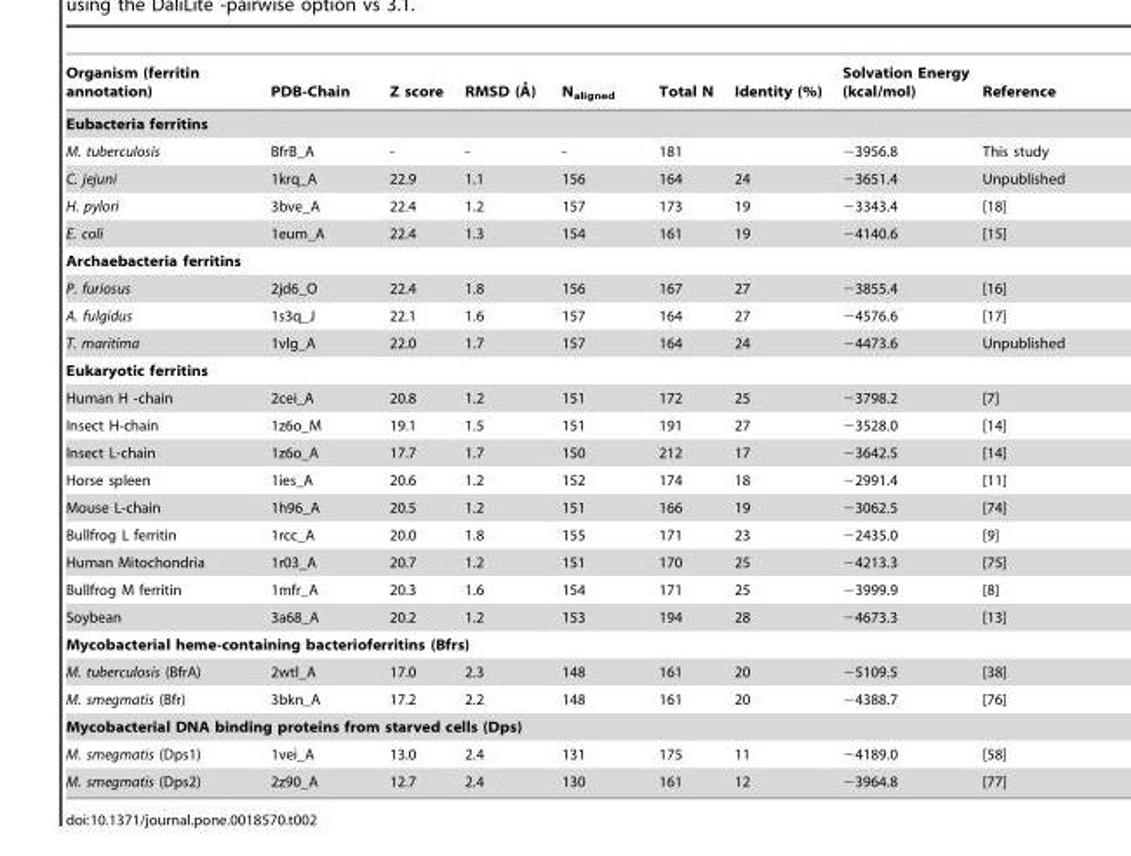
<table><thead><tr><td>Organism (ferritin annotation)</td><td>PDB-Chain</td><td>Z score</td><td>RMSD (A˚)</td><td>N<sub>aligned</sub></td><td>Total N</td><td>Identity (%)</td><td>Solvation Energy (kcal/mol)</td><td>Reference</td></tr></thead><tbody><tr><td colspan="9">Eubacteria ferritins</td></tr><tr><td>M. tuberculosis</td><td>BfrB_A</td><td>-</td><td>-</td><td>-</td><td>181</td><td></td><td>−3956.8</td><td>This study</td></tr><tr><td>C. jejuni</td><td>1krq_A</td><td>22.9</td><td>1.1</td><td>156</td><td>164</td><td>24</td><td>−3651.4</td><td>Unpublished</td></tr><tr><td>H. pylori</td><td>3bve_A</td><td>22.4</td><td>1.2</td><td>157</td><td>173</td><td>19</td><td>−3343.4</td><td>[18]</td></tr><tr><td>E. coli</td><td>1eum_A</td><td>22.4</td><td>1.3</td><td>154</td><td>161</td><td>19</td><td>−4140.6</td><td>[15]</td></tr><tr><td colspan="9">Archaebacteria ferritins</td></tr><tr><td>P. furiosus</td><td>2jd6_O</td><td>22.4</td><td>1.8</td><td>156</td><td>167</td><td>27</td><td>−3855.4</td><td>[16]</td></tr><tr><td>A. fulgidus</td><td>1s3q_J</td><td>22.1</td><td>1.6</td><td>157</td><td>164</td><td>27</td><td>−4576.6</td><td>[17]</td></tr><tr><td>T. maritima</td><td>1vlg_A</td><td>22.0</td><td>1.7</td><td>157</td><td>164</td><td>24</td><td>−4473.6</td><td>Unpublished</td></tr><tr><td colspan="9">Eukaryotic ferritins</td></tr><tr><td>Human H -chain</td><td>2cei_A</td><td>20.8</td><td>1.2</td><td>151</td><td>172</td><td>25</td><td>−3798.2</td><td>[7]</td></tr><tr><td>Insect H-chain</td><td>1z6o_M</td><td>19.1</td><td>1.5</td><td>151</td><td>191</td><td>27</td><td>−3528.0</td><td>[14]</td></tr><tr><td>Insect L-chain</td><td>1z6o_A</td><td>17.7</td><td>1.7</td><td>150</td><td>212</td><td>17</td><td>−3642.5</td><td>[14]</td></tr><tr><td>Horse spleen</td><td>1ies_A</td><td>20.6</td><td>1.2</td><td>152</td><td>174</td><td>18</td><td>−2991.4</td><td>[11]</td></tr><tr><td>Mouse L-chain</td><td>1h96_A</td><td>20.5</td><td>1.2</td><td>151</td><td>166</td><td>19</td><td>−3062.5</td><td>[74]</td></tr><tr><td>Bullfrog L ferritin</td><td>1rcc_A</td><td>20.0</td><td>1.8</td><td>155</td><td>171</td><td>23</td><td>−2435.0</td><td>[9]</td></tr><tr><td>Human Mitochondria</td><td>1r03_A</td><td>20.7</td><td>1.2</td><td>151</td><td>170</td><td>25</td><td>−4213.3</td><td>[75]</td></tr><tr><td>Bullfrog M ferritin</td><td>1mfr_A</td><td>20.3</td><td>1.6</td><td>154</td><td>171</td><td>25</td><td>−3999.9</td><td>[8]</td></tr><tr><td>Soybean</td><td>3a68_A</td><td>20.2</td><td>1.2</td><td>153</td><td>194</td><td>28</td><td>−4673.3</td><td>[13]</td></tr><tr><td colspan="9">Mycobacterial heme-containing bacterioferritins (Bfrs)</td></tr><tr><td>M. tuberculosis (BfrA)</td><td>2wtl_A</td><td>17.0</td><td>2.3</td><td>148</td><td>161</td><td>20</td><td>−5109.5</td><td>[38]</td></tr><tr><td>M. smegmatis (Bfr)</td><td>3bkn_A</td><td>17.2</td><td>2.2</td><td>148</td><td>161</td><td>20</td><td>−4388.7</td><td>[76]</td></tr><tr><td colspan="9">Mycobacterial DNA binding proteins from starved cells (Dps)</td></tr><tr><td>M. smegmatis (Dps1)</td><td>1vei_A</td><td>13.0</td><td>2.4</td><td>131</td><td>175</td><td>11</td><td>−4189.0</td><td>[58]</td></tr><tr><td>M. smegmatis (Dps2)</td><td>2z90_A</td><td>12.7</td><td>2.4</td><td>130</td><td>161</td><td>12</td><td>−3964.8</td><td>[77]</td></tr></tbody></table>